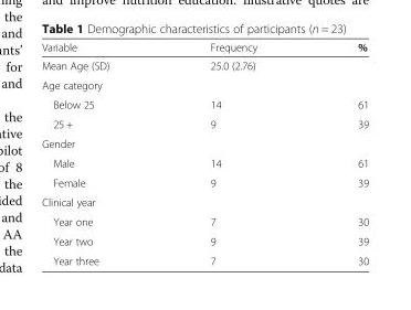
<table><thead><tr><td>Variable</td><td>Frequency</td><td>%</td></tr></thead><tbody><tr><td>Mean Age (SD)</td><td>25.0 (2.76)</td><td></td></tr><tr><td colspan="3">Age category</td></tr><tr><td>Below 25</td><td>14</td><td>61</td></tr><tr><td>25 +</td><td>9</td><td>39</td></tr><tr><td colspan="3">Gender</td></tr><tr><td>Male</td><td>14</td><td>61</td></tr><tr><td>Female</td><td>9</td><td>39</td></tr><tr><td colspan="3">Clinical year</td></tr><tr><td>Year one</td><td>7</td><td>30</td></tr><tr><td>Year two</td><td>9</td><td>39</td></tr><tr><td>Year three</td><td>7</td><td>30</td></tr></tbody></table>